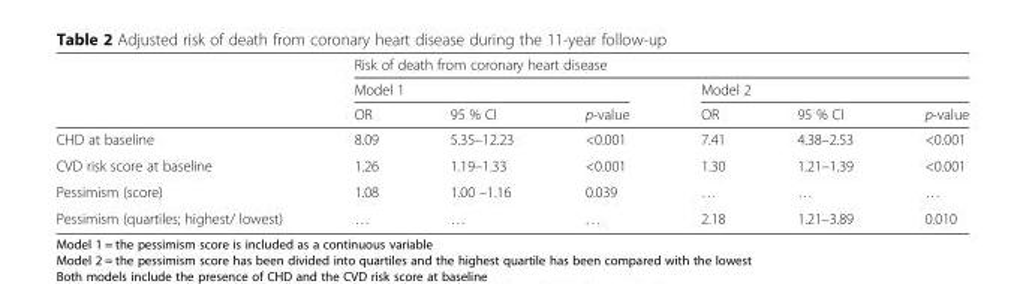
<table><thead><tr><td rowspan="3"></td><td colspan="6">Risk of death from coronary heart disease</td></tr><tr><td colspan="3">Model 1</td><td colspan="3">Model 2</td></tr><tr><td>OR</td><td>95 % CI</td><td>p-value</td><td>OR</td><td>95 % CI</td><td>p-value</td></tr></thead><tbody><tr><td>CHD at baseline</td><td>8.09</td><td>5.35–12.23</td><td>&lt;0.001</td><td>7.41</td><td>4.38–2.53</td><td>&lt;0.001</td></tr><tr><td>CVD risk score at baseline</td><td>1.26</td><td>1.19–1.33</td><td>&lt;0.001</td><td>1.30</td><td>1.21–1.39</td><td>&lt;0.001</td></tr><tr><td>Pessimism (score)</td><td>1.08</td><td>1.00 –1.16</td><td>0.039</td><td>…</td><td>…</td><td>…</td></tr><tr><td>Pessimism (quartiles; highest/ lowest)</td><td>…</td><td>…</td><td>…</td><td>2.18</td><td>1.21–3.89</td><td>0.010</td></tr></tbody></table>